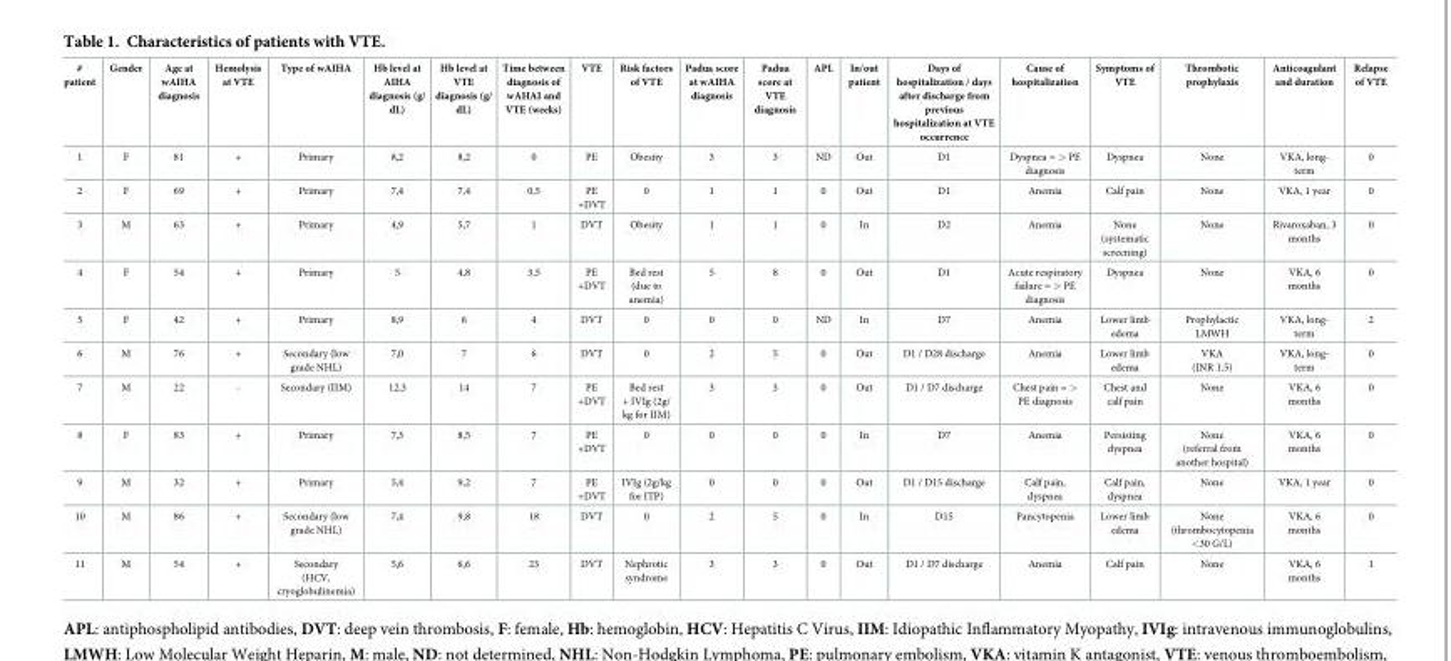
<table><thead><tr><td># patient</td><td>Gender</td><td>Age at wAIHA diagnosis</td><td>Hemolysis at VTE</td><td>Type of wAIHA</td><td>Hb level at AIHA diagnosis (g/ dL)</td><td>Hb level at VTE diagnosis (g/ dL)</td><td>Time between diagnosis of wAHAI and VTE (weeks)</td><td>VTE</td><td>Risk factors of VTE</td><td>Padua score at wAIHA diagnosis</td><td>Padua score at VTE diagnosis</td><td>APL</td><td>In/out patient</td><td>Days of hospitalization / days after discharge from previous hospitalization at VTE occurrence</td><td>Cause of hospitalization</td><td>Symptoms of VTE</td><td>Thrombotic prophylaxis</td><td>Anticoagulant and duration</td><td>Relapse of VTE</td></tr></thead><tbody><tr><td>1</td><td>F</td><td>81</td><td>+</td><td>Primary</td><td>8,2</td><td>8,2</td><td>0</td><td>PE</td><td>Obesity</td><td>3</td><td>3</td><td>ND</td><td>Out</td><td>D1</td><td>Dyspnea = &gt; PE diagnosis</td><td>Dyspnea</td><td>None</td><td>VKA, long- term</td><td>0</td></tr><tr><td>2</td><td>F</td><td>69</td><td>+</td><td>Primary</td><td>7,4</td><td>7,4</td><td>0,5</td><td>PE +DVT</td><td>0</td><td>1</td><td>1</td><td>0</td><td>Out</td><td>D1</td><td>Anemia</td><td>Calf pain</td><td>None</td><td>VKA, 1 year</td><td>0</td></tr><tr><td>3</td><td>M</td><td>63</td><td>+</td><td>Primary</td><td>4,9</td><td>5,7</td><td>1</td><td>DVT</td><td>Obesity</td><td>1</td><td>1</td><td>0</td><td>In</td><td>D2</td><td>Anemia</td><td>None (systematic screening)</td><td>None</td><td>Rivaroxaban, 3 months</td><td>0</td></tr><tr><td>4</td><td>F</td><td>54</td><td>+</td><td>Primary</td><td>5</td><td>4,8</td><td>3,5</td><td>PE +DVT</td><td>Bed rest (due to anemia)</td><td>5</td><td>8</td><td>0</td><td>Out</td><td>D1</td><td>Acute respiratory failure = &gt; PE diagnosis</td><td>Dyspnea</td><td>None</td><td>VKA, 6 months</td><td>0</td></tr><tr><td>5</td><td>F</td><td>42</td><td>+</td><td>Primary</td><td>8,9</td><td>6</td><td>4</td><td>DVT</td><td>0</td><td>0</td><td>0</td><td>ND</td><td>In</td><td>D7</td><td>Anemia</td><td>Lower limb edema</td><td>Prophylactic LMWH</td><td>VKA, long- term</td><td>2</td></tr><tr><td>6</td><td>M</td><td>76</td><td>+</td><td>Secondary (low grade NHL)</td><td>7,0</td><td>7</td><td>6</td><td>DVT</td><td>0</td><td>2</td><td>5</td><td>0</td><td>Out</td><td>D1 / D28 discharge</td><td>Anemia</td><td>Lower limb edema</td><td>VKA (INR 1.5)</td><td>VKA, long- term</td><td>0</td></tr><tr><td>7</td><td>M</td><td>22</td><td>-</td><td>Secondary (IIM)</td><td>12,3</td><td>14</td><td>7</td><td>PE +DVT</td><td>Bed rest + IVIg (2g/ kg for IIM)</td><td>3</td><td>3</td><td>0</td><td>Out</td><td>D1 / D7 discharge</td><td>Chest pain = &gt; PE diagnosis</td><td>Chest and calf pain</td><td>None</td><td>VKA, 6 months</td><td>0</td></tr><tr><td>8</td><td>F</td><td>83</td><td>+</td><td>Primary</td><td>7,3</td><td>8,5</td><td>7</td><td>PE +DVT</td><td>0</td><td>0</td><td>0</td><td>0</td><td>In</td><td>D7</td><td>Anemia</td><td>Persisting dyspnea</td><td>None (referral from another hospital)</td><td>VKA, 6 months</td><td>0</td></tr><tr><td>9</td><td>M</td><td>32</td><td>+</td><td>Primary</td><td>5,4</td><td>9,2</td><td>7</td><td>PE +DVT</td><td>IVIg (2g/kg for ITP)</td><td>0</td><td>0</td><td>0</td><td>Out</td><td>D1 / D15 discharge</td><td>Calf pain, dyspnea</td><td>Calf pain, dyspnea</td><td>None</td><td>VKA, 1 year</td><td>0</td></tr><tr><td>10</td><td>M</td><td>86</td><td>+</td><td>Secondary (low grade NHL)</td><td>7,4</td><td>9,8</td><td>18</td><td>DVT</td><td>0</td><td>2</td><td>5</td><td>0</td><td>In</td><td>D15</td><td>Pancytopenia</td><td>Lower limb edema</td><td>None (thrombocytopenia &lt;30 G/L)</td><td>VKA, 6 months</td><td>0</td></tr><tr><td>11</td><td>M</td><td>54</td><td>+</td><td>Secondary (HCV, cryoglobulinemia)</td><td>5,6</td><td>6,6</td><td>23</td><td>DVT</td><td>Nephrotic syndrome</td><td>3</td><td>3</td><td>0</td><td>Out</td><td>D1 / D7 discharge</td><td>Anemia</td><td>Calf pain</td><td>None</td><td>VKA, 6 months</td><td>1</td></tr></tbody></table>